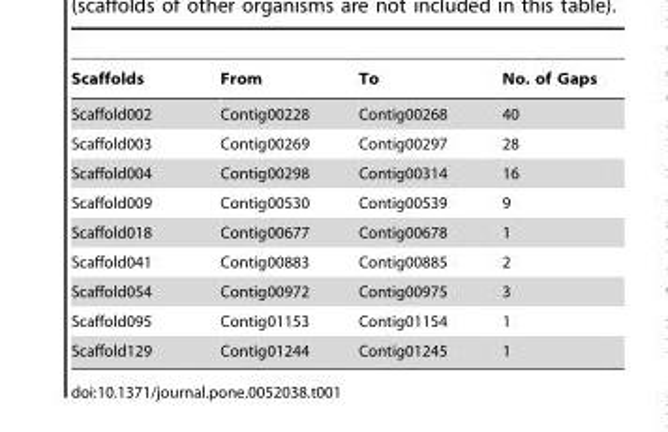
<table><thead><tr><td>Scaffolds</td><td>From</td><td>To</td><td>No. of Gaps</td></tr></thead><tbody><tr><td>Scaffold002</td><td>Contig00228</td><td>Contig00268</td><td>40</td></tr><tr><td>Scaffold003</td><td>Contig00269</td><td>Contig00297</td><td>28</td></tr><tr><td>Scaffold004</td><td>Contig00298</td><td>Contig00314</td><td>16</td></tr><tr><td>Scaffold009</td><td>Contig00530</td><td>Contig00539</td><td>9</td></tr><tr><td>Scaffold018</td><td>Contig00677</td><td>Contig00678</td><td>1</td></tr><tr><td>Scaffold041</td><td>Contig00883</td><td>Contig00885</td><td>2</td></tr><tr><td>Scaffold054</td><td>Contig00972</td><td>Contig00975</td><td>3</td></tr><tr><td>Scaffold095</td><td>Contig01153</td><td>Contig01154</td><td>1</td></tr><tr><td>Scaffold129</td><td>Contig01244</td><td>Contig01245</td><td>1</td></tr></tbody></table>